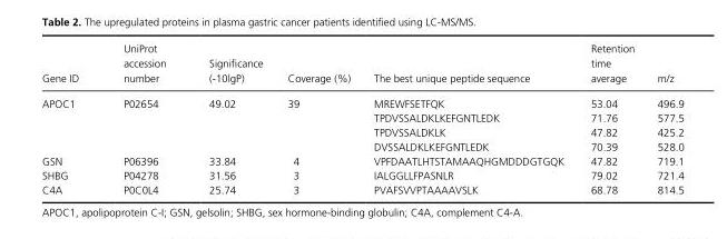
<table><thead><tr><td>Gene ID</td><td>UniProt accession number</td><td>Significance (- 10lgP)</td><td>Coverage (%)</td><td>The best unique peptide sequence</td><td>Retention time average</td><td>m/z</td></tr></thead><tbody><tr><td rowspan="4">APOC1</td><td>P02654</td><td>49.02</td><td>39</td><td>MREWFSETFQK</td><td>53.04</td><td>496.9</td></tr><tr><td></td><td></td><td></td><td>TPDVSSALDKLKEFGNTLEDK</td><td>71.76</td><td>577.5</td></tr><tr><td></td><td></td><td></td><td>TPDVSSALDKLK</td><td>47.82</td><td>425.2</td></tr><tr><td></td><td></td><td></td><td>DVSSALDKLKEFGNTLEDK</td><td>70.39</td><td>528.0</td></tr><tr><td>GSN</td><td>P06396</td><td>33.84</td><td>4</td><td>VPFDAATLHTSTAMAAQHGMDDDGTGQK</td><td>47.82</td><td>719.1</td></tr><tr><td>SHBG</td><td>P04278</td><td>31.56</td><td>3</td><td>IALGGLLFPASNLR</td><td>79.02</td><td>721.4</td></tr><tr><td>C4A</td><td>P0C0L4</td><td>25.74</td><td>3</td><td>PVAFSVVPTAAAAVSLK</td><td>68.78</td><td>814.5</td></tr></tbody></table>